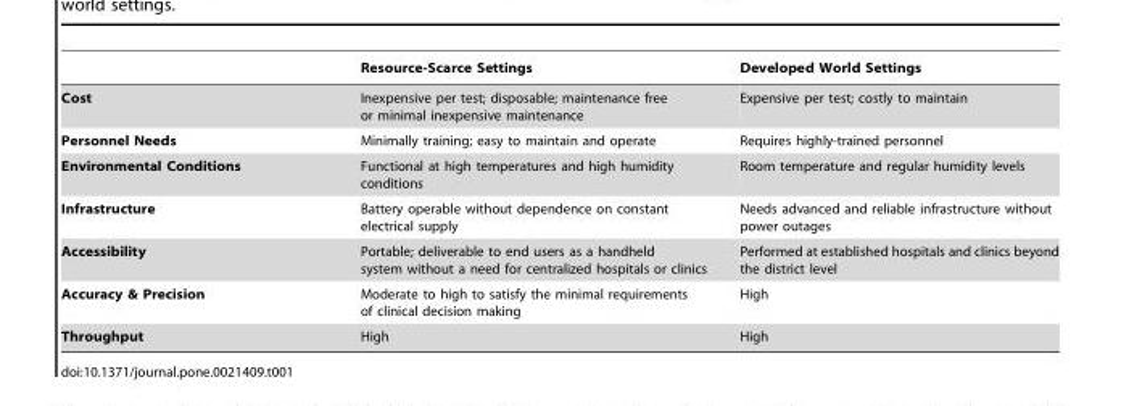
<table><thead><tr><td></td><td>Resource-Scarce Settings</td><td>Developed World Settings</td></tr></thead><tbody><tr><td>Cost</td><td>Inexpensive per test; disposable; maintenance free or minimal inexpensive maintenance</td><td>Expensive per test; costly to maintain</td></tr><tr><td>Personnel Needs</td><td>Minimally training; easy to maintain and operate</td><td>Requires highly-trained personnel</td></tr><tr><td>Environmental Conditions</td><td>Functional at high temperatures and high humidity conditions</td><td>Room temperature and regular humidity levels</td></tr><tr><td>Infrastructure</td><td>Battery operable without dependence on constant electrical supply</td><td>Needs advanced and reliable infrastructure without power outages</td></tr><tr><td>Accessibility</td><td>Portable; deliverable to end users as a handheld system without a need for centralized hospitals or clinics</td><td>Performed at established hospitals and clinics beyond the district level</td></tr><tr><td>Accuracy &amp; Precision</td><td>Moderate to high to satisfy the minimal requirements of clinical decision making</td><td>High</td></tr><tr><td>Throughput</td><td>High</td><td>High</td></tr></tbody></table>